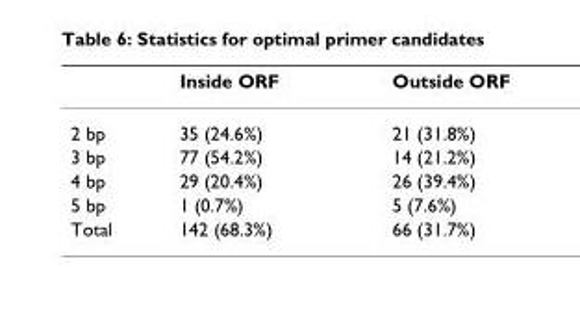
<table><thead><tr><td></td><td>Inside ORF</td><td>Outside ORF</td></tr></thead><tbody><tr><td>2 bp</td><td>35 (24.6%)</td><td>21 (31.8%)</td></tr><tr><td>3 bp</td><td>77 (54.2%)</td><td>14 (21.2%)</td></tr><tr><td>4 bp</td><td>29 (20.4%)</td><td>26 (39.4%)</td></tr><tr><td>5 bp</td><td>1 (0.7%)</td><td>5 (7.6%)</td></tr><tr><td>Total</td><td>142 (68.3%)</td><td>66 (31.7%)</td></tr></tbody></table>